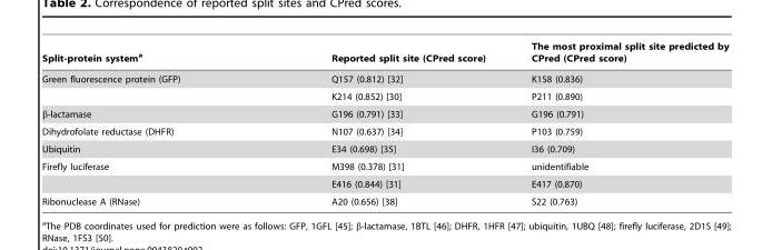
<table><thead><tr><td>Split-protein system<sup>a</sup></td><td>Reported split site (CPred score)</td><td>The most proximal split site predicted by CPred (CPred score)</td></tr></thead><tbody><tr><td rowspan="2">Green fluorescence protein (GFP)</td><td>Q157 (0.812) [32]</td><td>K158 (0.836)</td></tr><tr><td>K214 (0.852) [30]</td><td>P211 (0.890)</td></tr><tr><td>β-lactamase</td><td>G196 (0.791) [33]</td><td>G196 (0.791)</td></tr><tr><td>Dihydrofolate reductase (DHFR)</td><td>N107 (0.637) [34]</td><td>P103 (0.759)</td></tr><tr><td>Ubiquitin</td><td>E34 (0.698) [35]</td><td>I36 (0.709)</td></tr><tr><td rowspan="2">Firefly luciferase</td><td>M398 (0.378) [31]</td><td>unidentifiable</td></tr><tr><td>E416 (0.844) [31]</td><td>E417 (0.870)</td></tr><tr><td>Ribonuclease A (RNase)</td><td>A20 (0.656) [38]</td><td>S22 (0.763)</td></tr></tbody></table>